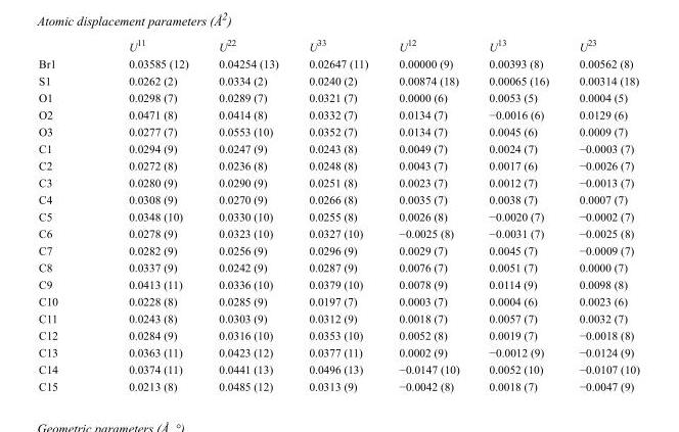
<table><thead><tr><td></td><td>U<sup>11</sup></td><td>U<sup>22</sup></td><td>U<sup>33</sup></td><td>U<sup>12</sup></td><td>U<sup>13</sup></td><td>U<sup>23</sup></td></tr></thead><tbody><tr><td>Br1</td><td>0.03585 (12)</td><td>0.04254 (13)</td><td>0.02647 (11)</td><td>0.00000 (9)</td><td>0.00393 (8)</td><td>0.00562 (8)</td></tr><tr><td>S1</td><td>0.0262 (2)</td><td>0.0334 (2)</td><td>0.0240 (2)</td><td>0.00874 (18)</td><td>0.00065 (16)</td><td>0.00314 (18)</td></tr><tr><td>O1</td><td>0.0298 (7)</td><td>0.0289 (7)</td><td>0.0321 (7)</td><td>0.0000 (6)</td><td>0.0053 (5)</td><td>0.0004 (5)</td></tr><tr><td>O2</td><td>0.0471 (8)</td><td>0.0414 (8)</td><td>0.0332 (7)</td><td>0.0134 (7)</td><td>−0.0016 (6)</td><td>0.0129 (6)</td></tr><tr><td>O3</td><td>0.0277 (7)</td><td>0.0553 (10)</td><td>0.0352 (7)</td><td>0.0134 (7)</td><td>0.0045 (6)</td><td>0.0009 (7)</td></tr><tr><td>C1</td><td>0.0294 (9)</td><td>0.0247 (9)</td><td>0.0243 (8)</td><td>0.0049 (7)</td><td>0.0024 (7)</td><td>−0.0003 (7)</td></tr><tr><td>C2</td><td>0.0272 (8)</td><td>0.0236 (8)</td><td>0.0248 (8)</td><td>0.0043 (7)</td><td>0.0017 (6)</td><td>−0.0026 (7)</td></tr><tr><td>C3</td><td>0.0280 (9)</td><td>0.0290 (9)</td><td>0.0251 (8)</td><td>0.0023 (7)</td><td>0.0012 (7)</td><td>−0.0013 (7)</td></tr><tr><td>C4</td><td>0.0308 (9)</td><td>0.0270 (9)</td><td>0.0266 (8)</td><td>0.0035 (7)</td><td>0.0038 (7)</td><td>0.0007 (7)</td></tr><tr><td>C5</td><td>0.0348 (10)</td><td>0.0330 (10)</td><td>0.0255 (8)</td><td>0.0026 (8)</td><td>−0.0020 (7)</td><td>−0.0002 (7)</td></tr><tr><td>C6</td><td>0.0278 (9)</td><td>0.0323 (10)</td><td>0.0327 (10)</td><td>−0.0025 (8)</td><td>−0.0031 (7)</td><td>−0.0025 (8)</td></tr><tr><td>C7</td><td>0.0282 (9)</td><td>0.0256 (9)</td><td>0.0296 (9)</td><td>0.0029 (7)</td><td>0.0045 (7)</td><td>−0.0009 (7)</td></tr><tr><td>C8</td><td>0.0337 (9)</td><td>0.0242 (9)</td><td>0.0287 (9)</td><td>0.0076 (7)</td><td>0.0051 (7)</td><td>0.0000 (7)</td></tr><tr><td>C9</td><td>0.0413 (11)</td><td>0.0336 (10)</td><td>0.0379 (10)</td><td>0.0078 (9)</td><td>0.0114 (9)</td><td>0.0098 (8)</td></tr><tr><td>C10</td><td>0.0228 (8)</td><td>0.0285 (9)</td><td>0.0197 (7)</td><td>0.0003 (7)</td><td>0.0004 (6)</td><td>0.0023 (6)</td></tr><tr><td>C11</td><td>0.0243 (8)</td><td>0.0303 (9)</td><td>0.0312 (9)</td><td>0.0018 (7)</td><td>0.0057 (7)</td><td>0.0032 (7)</td></tr><tr><td>C12</td><td>0.0284 (9)</td><td>0.0316 (10)</td><td>0.0353 (10)</td><td>0.0052 (8)</td><td>0.0019 (7)</td><td>−0.0018 (8)</td></tr><tr><td>C13</td><td>0.0363 (11)</td><td>0.0423 (12)</td><td>0.0377 (11)</td><td>0.0002 (9)</td><td>−0.0012 (9)</td><td>−0.0124 (9)</td></tr><tr><td>C14</td><td>0.0374 (11)</td><td>0.0441 (13)</td><td>0.0496 (13)</td><td>−0.0147 (10)</td><td>0.0052 (10)</td><td>−0.0107 (10)</td></tr><tr><td>C15</td><td>0.0213 (8)</td><td>0.0485 (12)</td><td>0.0313 (9)</td><td>−0.0042 (8)</td><td>0.0018 (7)</td><td>−0.0047 (9)</td></tr></tbody></table>